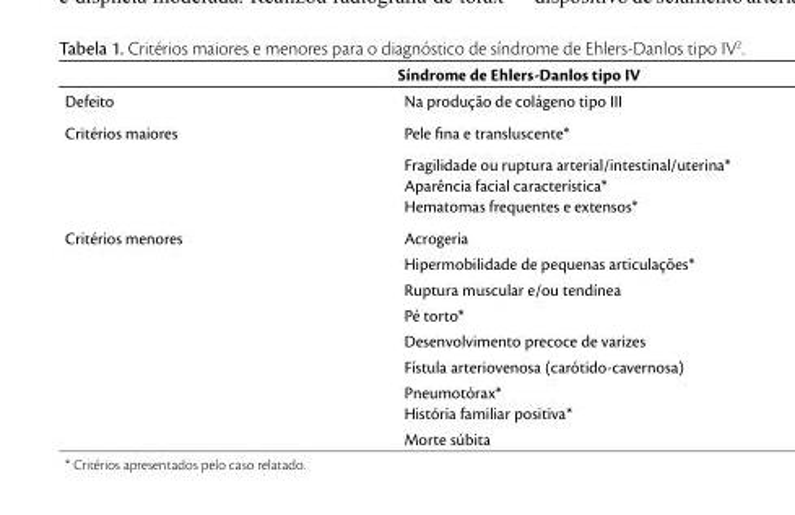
<table><thead><tr><td colspan="2">Síndrome de Ehlers-Danlos tipo IV</td></tr><tr><td>Defeito</td><td>Na produção de colágeno tipo III</td></tr></thead><tbody><tr><td rowspan="2">Critérios maiores</td><td>Pele fina e transluscente*</td></tr><tr><td>Fragilidade ou ruptura arterial/intestinal/uterina* Aparência facial característica* Hematomas frequentes e extensos*</td></tr><tr><td rowspan="8">Critérios menores</td><td>Acrogeria</td></tr><tr><td>Hipermobilidade de pequenas articulações*</td></tr><tr><td>Ruptura muscular e/ou tendínea</td></tr><tr><td>Pé torto*</td></tr><tr><td>Desenvolvimento precoce de varizes</td></tr><tr><td>Fístula arteriovenosa (carótido-cavernosa)</td></tr><tr><td>Pneumotórax* História familiar positiva*</td></tr><tr><td>Morte súbita</td></tr></tbody></table>